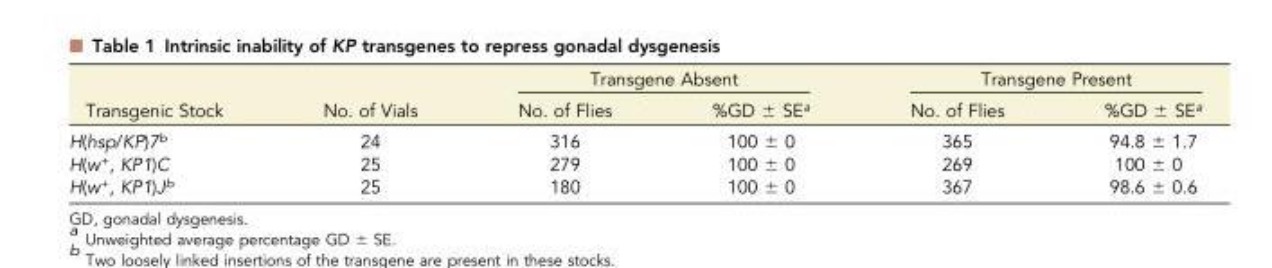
<table><thead><tr><td rowspan="2">Transgenic Stock</td><td rowspan="2">No. of Vials</td><td colspan="2">Transgene Absent</td><td colspan="2">Transgene Present</td></tr><tr><td>No. of Flies</td><td>%GD ± SE<sup>a</sup></td><td>No. of Flies</td><td>%GD ± SE<sup>a</sup></td></tr></thead><tbody><tr><td>H(hsp/KP)7<sup>b</sup></td><td>24</td><td>316</td><td>100 ± 0</td><td>365</td><td>94.8 ± 1.7</td></tr><tr><td>H(w<sup>+</sup>, KP1)C</td><td>25</td><td>279</td><td>100 ± 0</td><td>269</td><td>100 ± 0</td></tr><tr><td>H(w<sup>+</sup>, KP1)J<sup>b</sup></td><td>25</td><td>180</td><td>100 ± 0</td><td>367</td><td>98.6 ± 0.6</td></tr></tbody></table>